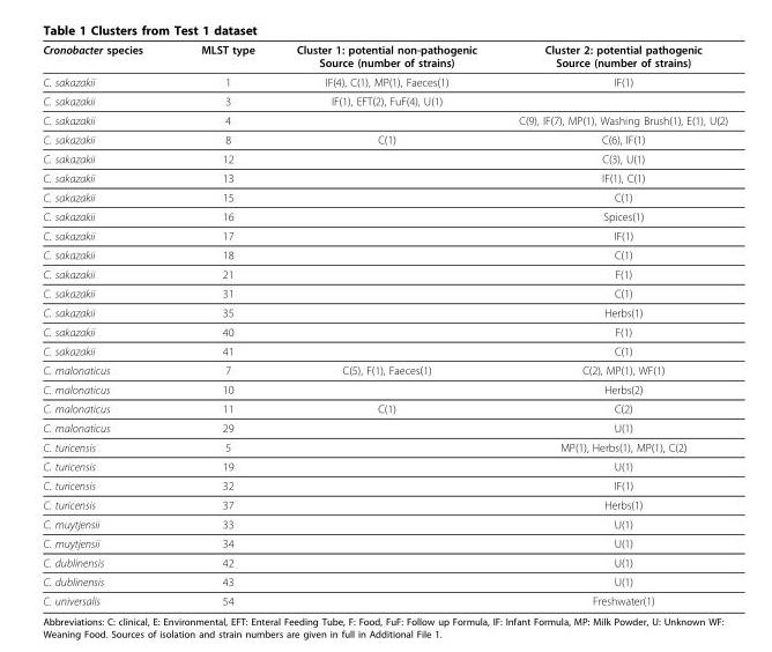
<table><thead><tr><td>Cronobacter species</td><td>MLST type</td><td>Cluster 1: potential non-pathogenic Source (number of strains)</td><td>Cluster 2: potential pathogenic Source (number of strains)</td></tr></thead><tbody><tr><td>C. sakazakii</td><td>1</td><td>IF(4), C(1), MP(1), Faeces(1)</td><td>IF(1)</td></tr><tr><td>C. sakazakii</td><td>3</td><td>IF(1), EFT(2), FuF(4), U(1)</td><td></td></tr><tr><td>C. sakazakii</td><td>4</td><td></td><td>C(9), IF(7), MP(1), Washing Brush(1), E(1), U(2)</td></tr><tr><td>C. sakazakii</td><td>8</td><td>C(1)</td><td>C(6), IF(1)</td></tr><tr><td>C. sakazakii</td><td>12</td><td></td><td>C(3), U(1)</td></tr><tr><td>C. sakazakii</td><td>13</td><td></td><td>IF(1), C(1)</td></tr><tr><td>C. sakazakii</td><td>15</td><td></td><td>C(1)</td></tr><tr><td>C. sakazakii</td><td>16</td><td></td><td>Spices(1)</td></tr><tr><td>C. sakazakii</td><td>17</td><td></td><td>IF(1)</td></tr><tr><td>C. sakazakii</td><td>18</td><td></td><td>C(1)</td></tr><tr><td>C. sakazakii</td><td>21</td><td></td><td>F(1)</td></tr><tr><td>C. sakazakii</td><td>31</td><td></td><td>C(1)</td></tr><tr><td>C. sakazakii</td><td>35</td><td></td><td>Herbs(1)</td></tr><tr><td>C. sakazakii</td><td>40</td><td></td><td>F(1)</td></tr><tr><td>C. sakazakii</td><td>41</td><td></td><td>C(1)</td></tr><tr><td>C. malonaticus</td><td>7</td><td>C(5), F(1), Faeces(1)</td><td>C(2), MP(1), WF(1)</td></tr><tr><td>C. malonaticus</td><td>10</td><td></td><td>Herbs(2)</td></tr><tr><td>C. malonaticus</td><td>11</td><td>C(1)</td><td>C(2)</td></tr><tr><td>C. malonaticus</td><td>29</td><td></td><td>U(1)</td></tr><tr><td>C. turicensis</td><td>5</td><td></td><td>MP(1), Herbs(1), MP(1), C(2)</td></tr><tr><td>C. turicensis</td><td>19</td><td></td><td>U(1)</td></tr><tr><td>C. turicensis</td><td>32</td><td></td><td>IF(1)</td></tr><tr><td>C. turicensis</td><td>37</td><td></td><td>Herbs(1)</td></tr><tr><td>C. muytjensii</td><td>33</td><td></td><td>U(1)</td></tr><tr><td>C. muytjensii</td><td>34</td><td></td><td>U(1)</td></tr><tr><td>C. dublinensis</td><td>42</td><td></td><td>U(1)</td></tr><tr><td>C. dublinensis</td><td>43</td><td></td><td>U(1)</td></tr><tr><td>C. universalis</td><td>54</td><td></td><td>Freshwater(1)</td></tr></tbody></table>